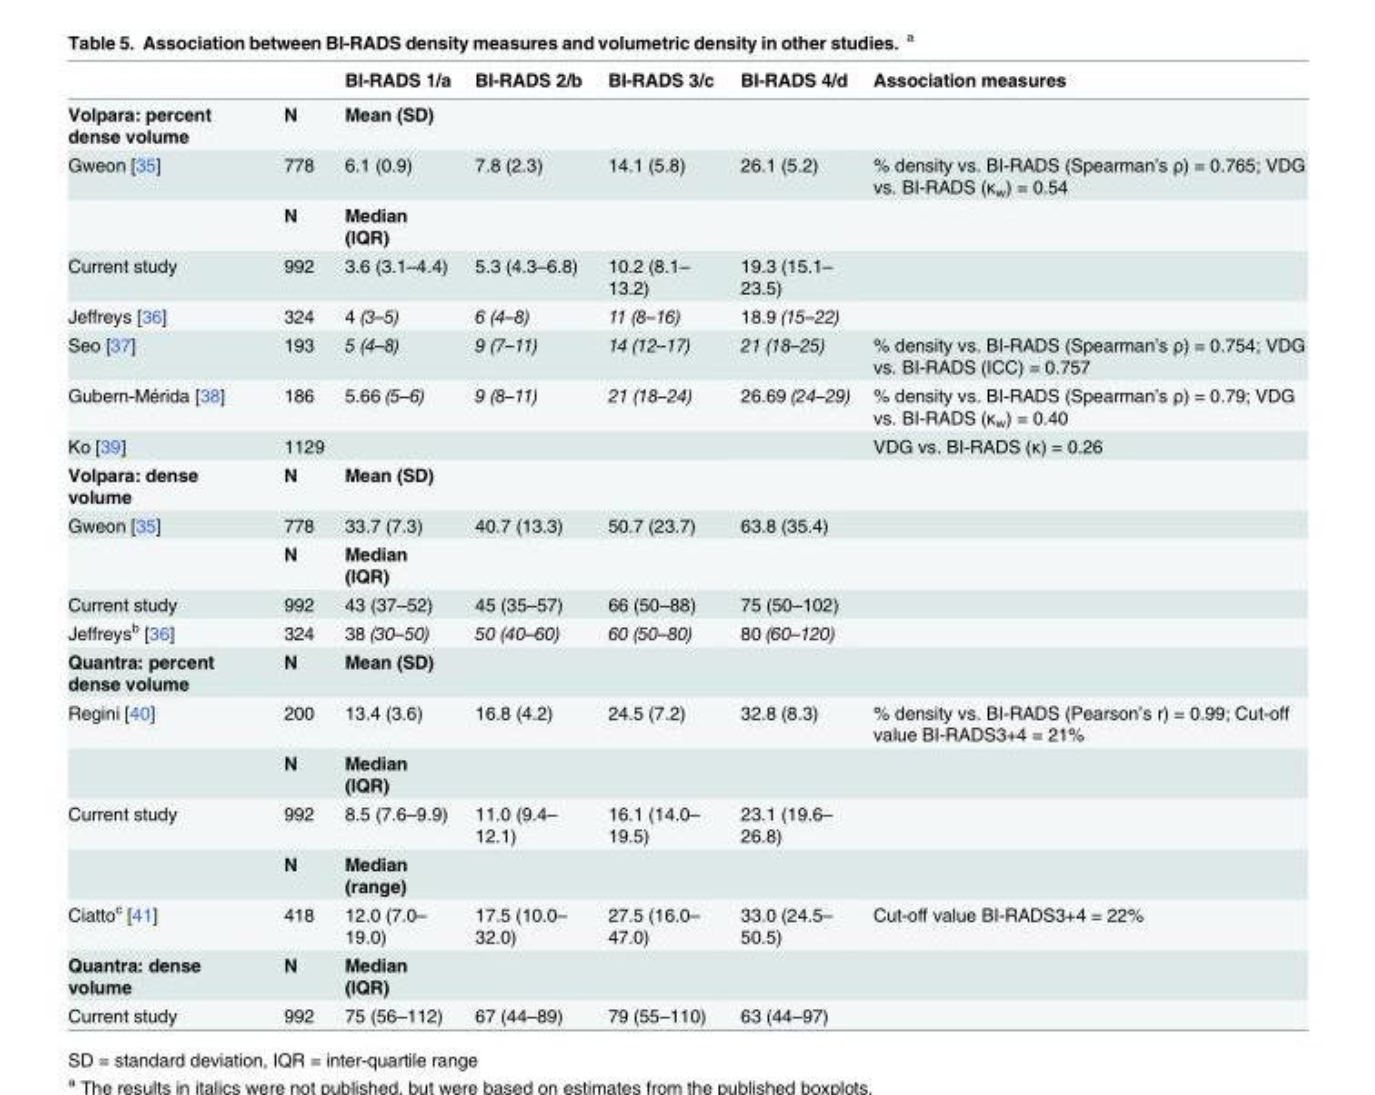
<table><thead><tr><td></td><td></td><td>BI-RADS 1/a</td><td>BI-RADS 2/b</td><td>BI-RADS 3/c</td><td>BI-RADS 4/d</td><td>Association measures</td></tr></thead><tbody><tr><td>Volpara: percent dense volume</td><td>N</td><td>Mean (SD)</td><td></td><td></td><td></td><td></td></tr><tr><td rowspan="2">Gweon [35]</td><td>778</td><td>6.1 (0.9)</td><td>7.8 (2.3)</td><td>14.1 (5.8)</td><td>26.1 (5.2)</td><td>% density vs. BI-RADS (Spearman’s ρ) = 0.765; VDG vs. BI-RADS (κ<sub>w</sub>) = 0.54</td></tr><tr><td>N</td><td>Median (IQR)</td><td></td><td></td><td></td><td></td></tr><tr><td>Current study</td><td>992</td><td>3.6 (3.1–4.4)</td><td>5.3 (4.3–6.8)</td><td>10.2 (8.1– 13.2)</td><td>19.3 (15.1– 23.5)</td><td></td></tr><tr><td>Jeffreys [36]</td><td>324</td><td>4 (3–5)</td><td>6 (4–8)</td><td>11 (8–16)</td><td>18.9 (15–22)</td><td></td></tr><tr><td>Seo [37]</td><td>193</td><td>5 (4–8)</td><td>9 (7–11)</td><td>14 (12–17)</td><td>21 (18–25)</td><td>% density vs. BI-RADS (Spearman’s ρ) = 0.754; VDG vs. BI-RADS (ICC) = 0.757</td></tr><tr><td>Gubern-Mérida [38]</td><td>186</td><td>5.66 (5–6)</td><td>9 (8–11)</td><td>21 (18–24)</td><td>26.69 (24–29)</td><td>% density vs. BI-RADS (Spearman’s ρ) = 0.79; VDG vs. BI-RADS (κ<sub>w</sub>) = 0.40</td></tr><tr><td>Ko [39]</td><td>1129</td><td></td><td></td><td></td><td></td><td>VDG vs. BI-RADS (κ) = 0.26</td></tr><tr><td>Volpara: dense volume</td><td>N</td><td>Mean (SD)</td><td></td><td></td><td></td><td></td></tr><tr><td rowspan="2">Gweon [35]</td><td>778</td><td>33.7 (7.3)</td><td>40.7 (13.3)</td><td>50.7 (23.7)</td><td>63.8 (35.4)</td><td></td></tr><tr><td>N</td><td>Median (IQR)</td><td></td><td></td><td></td><td></td></tr><tr><td>Current study</td><td>992</td><td>43 (37–52)</td><td>45 (35–57)</td><td>66 (50–88)</td><td>75 (50–102)</td><td></td></tr><tr><td>Jeffreys<sup>b</sup> [36]</td><td>324</td><td>38 (30–50)</td><td>50 (40–60)</td><td>60 (50–80)</td><td>80 (60–120)</td><td></td></tr><tr><td>Quantra: percent dense volume</td><td>N</td><td>Mean (SD)</td><td></td><td></td><td></td><td></td></tr><tr><td rowspan="2">Regini [40]</td><td>200</td><td>13.4 (3.6)</td><td>16.8 (4.2)</td><td>24.5 (7.2)</td><td>32.8 (8.3)</td><td>% density vs. BI-RADS (Pearson’s r) = 0.99; Cut-off value BI-RADS3+4 = 21%</td></tr><tr><td>N</td><td>Median (IQR)</td><td></td><td></td><td></td><td></td></tr><tr><td rowspan="2">Current study</td><td>992</td><td>8.5 (7.6–9.9)</td><td>11.0 (9.4– 12.1)</td><td>16.1 (14.0– 19.5)</td><td>23.1 (19.6– 26.8)</td><td></td></tr><tr><td>N</td><td>Median (range)</td><td></td><td></td><td></td><td></td></tr><tr><td>Ciatto<sup>c</sup> [41]</td><td>418</td><td>12.0 (7.0– 19.0)</td><td>17.5 (10.0– 32.0)</td><td>27.5 (16.0– 47.0)</td><td>33.0 (24.5– 50.5)</td><td>Cut-off value BI-RADS3+4 = 22%</td></tr><tr><td>Quantra: dense volume</td><td>N</td><td>Median (IQR)</td><td></td><td></td><td></td><td></td></tr><tr><td>Current study</td><td>992</td><td>75 (56–112)</td><td>67 (44–89)</td><td>79 (55–110)</td><td>63 (44–97)</td><td></td></tr></tbody></table>